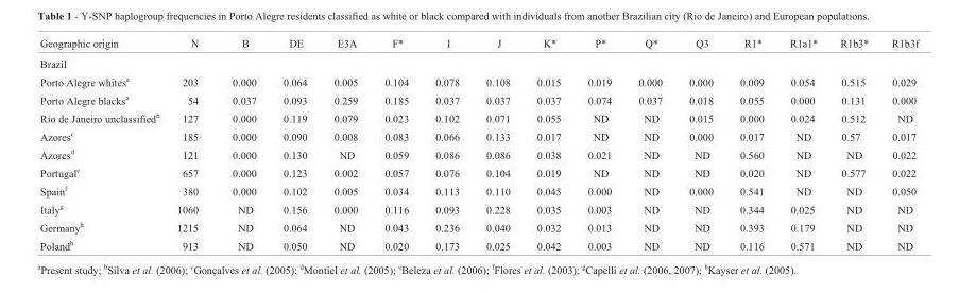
<table><thead><tr><td>Geographic origin</td><td>N</td><td>B</td><td>DE</td><td>E3A</td><td>F*</td><td>I</td><td>J</td><td>K*</td><td>P*</td><td>Q*</td><td>Q3</td><td>R1*</td><td>R1a1*</td><td>R1b3*</td><td>R1b3f</td></tr></thead><tbody><tr><td colspan="16">Brazil</td></tr><tr><td>Porto Alegre whites<sup>a</sup></td><td>203</td><td>0.000</td><td>0.064</td><td>0.005</td><td>0.104</td><td>0.078</td><td>0.108</td><td>0.015</td><td>0.019</td><td>0.000</td><td>0.000</td><td>0.009</td><td>0.054</td><td>0.515</td><td>0.029</td></tr><tr><td>Porto Alegre blacks<sup>a</sup></td><td>54</td><td>0.037</td><td>0.093</td><td>0.259</td><td>0.185</td><td>0.037</td><td>0.037</td><td>0.037</td><td>0.074</td><td>0.037</td><td>0.018</td><td>0.055</td><td>0.000</td><td>0.131</td><td>0.000</td></tr><tr><td>Rio de Janeiro unclassified<sup>b</sup></td><td>127</td><td>0.000</td><td>0.119</td><td>0.079</td><td>0.023</td><td>0.102</td><td>0.071</td><td>0.055</td><td>ND</td><td>ND</td><td>0.015</td><td>0.000</td><td>0.024</td><td>0.512</td><td>ND</td></tr><tr><td>Azores<sup>c</sup></td><td>185</td><td>0.000</td><td>0.090</td><td>0.008</td><td>0.083</td><td>0.066</td><td>0.133</td><td>0.017</td><td>ND</td><td>ND</td><td>0.000</td><td>0.017</td><td>ND</td><td>0.57</td><td>0.017</td></tr><tr><td>Azores<sup>d</sup></td><td>121</td><td>0.000</td><td>0.130</td><td>ND</td><td>0.059</td><td>0.086</td><td>0.086</td><td>0.038</td><td>0.021</td><td>ND</td><td>ND</td><td>0.560</td><td>ND</td><td>ND</td><td>0.022</td></tr><tr><td>Portugal<sup>e</sup></td><td>657</td><td>0.000</td><td>0.123</td><td>0.002</td><td>0.057</td><td>0.076</td><td>0.104</td><td>0.019</td><td>ND</td><td>ND</td><td>ND</td><td>0.020</td><td>ND</td><td>0.577</td><td>0.022</td></tr><tr><td>Spain<sup>f</sup></td><td>380</td><td>0.000</td><td>0.102</td><td>0.005</td><td>0.034</td><td>0.113</td><td>0.110</td><td>0.045</td><td>0.000</td><td>ND</td><td>0.000</td><td>0.541</td><td>ND</td><td>ND</td><td>0.050</td></tr><tr><td>Italy<sup>g</sup></td><td>1060</td><td>ND</td><td>0.156</td><td>0.000</td><td>0.116</td><td>0.093</td><td>0.228</td><td>0.035</td><td>0.003</td><td>ND</td><td>ND</td><td>0.344</td><td>0.025</td><td>ND</td><td>ND</td></tr><tr><td>Germany<sup>h</sup></td><td>1215</td><td>ND</td><td>0.064</td><td>ND</td><td>0.043</td><td>0.236</td><td>0.040</td><td>0.032</td><td>0.013</td><td>ND</td><td>ND</td><td>0.393</td><td>0.179</td><td>ND</td><td>ND</td></tr><tr><td>Poland<sup>h</sup></td><td>913</td><td>ND</td><td>0.050</td><td>ND</td><td>0.020</td><td>0.173</td><td>0.025</td><td>0.042</td><td>0.003</td><td>ND</td><td>ND</td><td>0.116</td><td>0.571</td><td>ND</td><td>ND</td></tr></tbody></table>